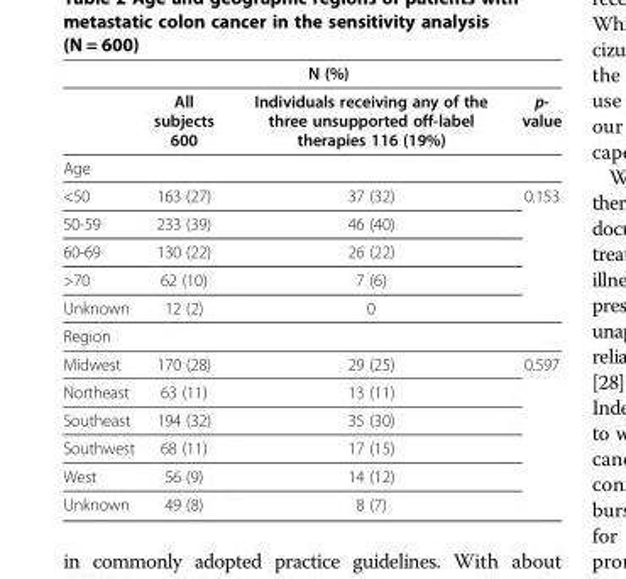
<table><thead><tr><td rowspan="2"></td><td colspan="2">N (%)</td><td rowspan="2">p- value</td></tr><tr><td>All subjects 600</td><td>Individuals receiving any of the three unsupported off-label therapies 116 (19%)</td></tr></thead><tbody><tr><td colspan="4">Age</td></tr><tr><td>&lt;50</td><td>163 (27)</td><td>37 (32)</td><td rowspan="5">0.153</td></tr><tr><td>50-59</td><td>233 (39)</td><td>46 (40)</td></tr><tr><td>60-69</td><td>130 (22)</td><td>26 (22)</td></tr><tr><td>&gt;70</td><td>62 (10)</td><td>7 (6)</td></tr><tr><td>Unknown</td><td>12 (2)</td><td>0</td></tr><tr><td colspan="4">Region</td></tr><tr><td>Midwest</td><td>170 (28)</td><td>29 (25)</td><td rowspan="6">0.597</td></tr><tr><td>Northeast</td><td>63 (11)</td><td>13 (11)</td></tr><tr><td>Southeast</td><td>194 (32)</td><td>35 (30)</td></tr><tr><td>Southwest</td><td>68 (11)</td><td>17 (15)</td></tr><tr><td>West</td><td>56 (9)</td><td>14 (12)</td></tr><tr><td>Unknown</td><td>49 (8)</td><td>8 (7)</td></tr></tbody></table>